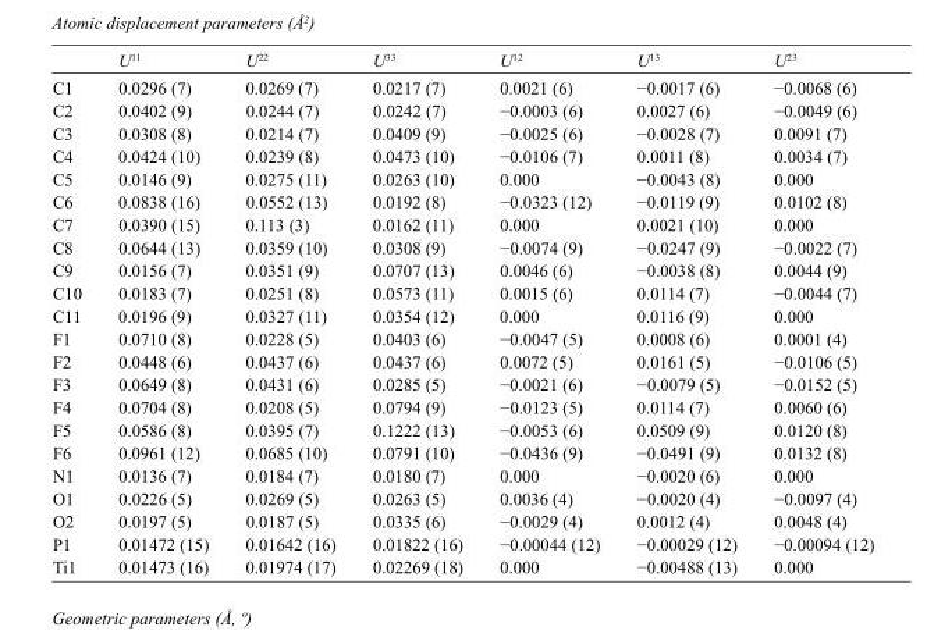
<table><thead><tr><td></td><td>U<sup>11</sup></td><td>U<sup>22</sup></td><td>U<sup>33</sup></td><td>U<sup>12</sup></td><td>U<sup>13</sup></td><td>U<sup>23</sup></td></tr></thead><tbody><tr><td>C1</td><td>0.0296 (7)</td><td>0.0269 (7)</td><td>0.0217 (7)</td><td>0.0021 (6)</td><td>−0.0017 (6)</td><td>−0.0068 (6)</td></tr><tr><td>C2</td><td>0.0402 (9)</td><td>0.0244 (7)</td><td>0.0242 (7)</td><td>−0.0003 (6)</td><td>0.0027 (6)</td><td>−0.0049 (6)</td></tr><tr><td>C3</td><td>0.0308 (8)</td><td>0.0214 (7)</td><td>0.0409 (9)</td><td>−0.0025 (6)</td><td>−0.0028 (7)</td><td>0.0091 (7)</td></tr><tr><td>C4</td><td>0.0424 (10)</td><td>0.0239 (8)</td><td>0.0473 (10)</td><td>−0.0106 (7)</td><td>0.0011 (8)</td><td>0.0034 (7)</td></tr><tr><td>C5</td><td>0.0146 (9)</td><td>0.0275 (11)</td><td>0.0263 (10)</td><td>0.000</td><td>−0.0043 (8)</td><td>0.000</td></tr><tr><td>C6</td><td>0.0838 (16)</td><td>0.0552 (13)</td><td>0.0192 (8)</td><td>−0.0323 (12)</td><td>−0.0119 (9)</td><td>0.0102 (8)</td></tr><tr><td>C7</td><td>0.0390 (15)</td><td>0.113 (3)</td><td>0.0162 (11)</td><td>0.000</td><td>0.0021 (10)</td><td>0.000</td></tr><tr><td>C8</td><td>0.0644 (13)</td><td>0.0359 (10)</td><td>0.0308 (9)</td><td>−0.0074 (9)</td><td>−0.0247 (9)</td><td>−0.0022 (7)</td></tr><tr><td>C9</td><td>0.0156 (7)</td><td>0.0351 (9)</td><td>0.0707 (13)</td><td>0.0046 (6)</td><td>−0.0038 (8)</td><td>0.0044 (9)</td></tr><tr><td>C10</td><td>0.0183 (7)</td><td>0.0251 (8)</td><td>0.0573 (11)</td><td>0.0015 (6)</td><td>0.0114 (7)</td><td>−0.0044 (7)</td></tr><tr><td>C11</td><td>0.0196 (9)</td><td>0.0327 (11)</td><td>0.0354 (12)</td><td>0.000</td><td>0.0116 (9)</td><td>0.000</td></tr><tr><td>F1</td><td>0.0710 (8)</td><td>0.0228 (5)</td><td>0.0403 (6)</td><td>−0.0047 (5)</td><td>0.0008 (6)</td><td>0.0001 (4)</td></tr><tr><td>F2</td><td>0.0448 (6)</td><td>0.0437 (6)</td><td>0.0437 (6)</td><td>0.0072 (5)</td><td>0.0161 (5)</td><td>−0.0106 (5)</td></tr><tr><td>F3</td><td>0.0649 (8)</td><td>0.0431 (6)</td><td>0.0285 (5)</td><td>−0.0021 (6)</td><td>−0.0079 (5)</td><td>−0.0152 (5)</td></tr><tr><td>F4</td><td>0.0704 (8)</td><td>0.0208 (5)</td><td>0.0794 (9)</td><td>−0.0123 (5)</td><td>0.0114 (7)</td><td>0.0060 (6)</td></tr><tr><td>F5</td><td>0.0586 (8)</td><td>0.0395 (7)</td><td>0.1222 (13)</td><td>−0.0053 (6)</td><td>0.0509 (9)</td><td>0.0120 (8)</td></tr><tr><td>F6</td><td>0.0961 (12)</td><td>0.0685 (10)</td><td>0.0791 (10)</td><td>−0.0436 (9)</td><td>−0.0491 (9)</td><td>0.0132 (8)</td></tr><tr><td>N1</td><td>0.0136 (7)</td><td>0.0184 (7)</td><td>0.0180 (7)</td><td>0.000</td><td>−0.0020 (6)</td><td>0.000</td></tr><tr><td>O1</td><td>0.0226 (5)</td><td>0.0269 (5)</td><td>0.0263 (5)</td><td>0.0036 (4)</td><td>−0.0020 (4)</td><td>−0.0097 (4)</td></tr><tr><td>O2</td><td>0.0197 (5)</td><td>0.0187 (5)</td><td>0.0335 (6)</td><td>−0.0029 (4)</td><td>0.0012 (4)</td><td>0.0048 (4)</td></tr><tr><td>P1</td><td>0.01472 (15)</td><td>0.01642 (16)</td><td>0.01822 (16)</td><td>−0.00044 (12)</td><td>−0.00029 (12)</td><td>−0.00094 (12)</td></tr><tr><td>Ti1</td><td>0.01473 (16)</td><td>0.01974 (17)</td><td>0.02269 (18)</td><td>0.000</td><td>−0.00488 (13)</td><td>0.000</td></tr></tbody></table>